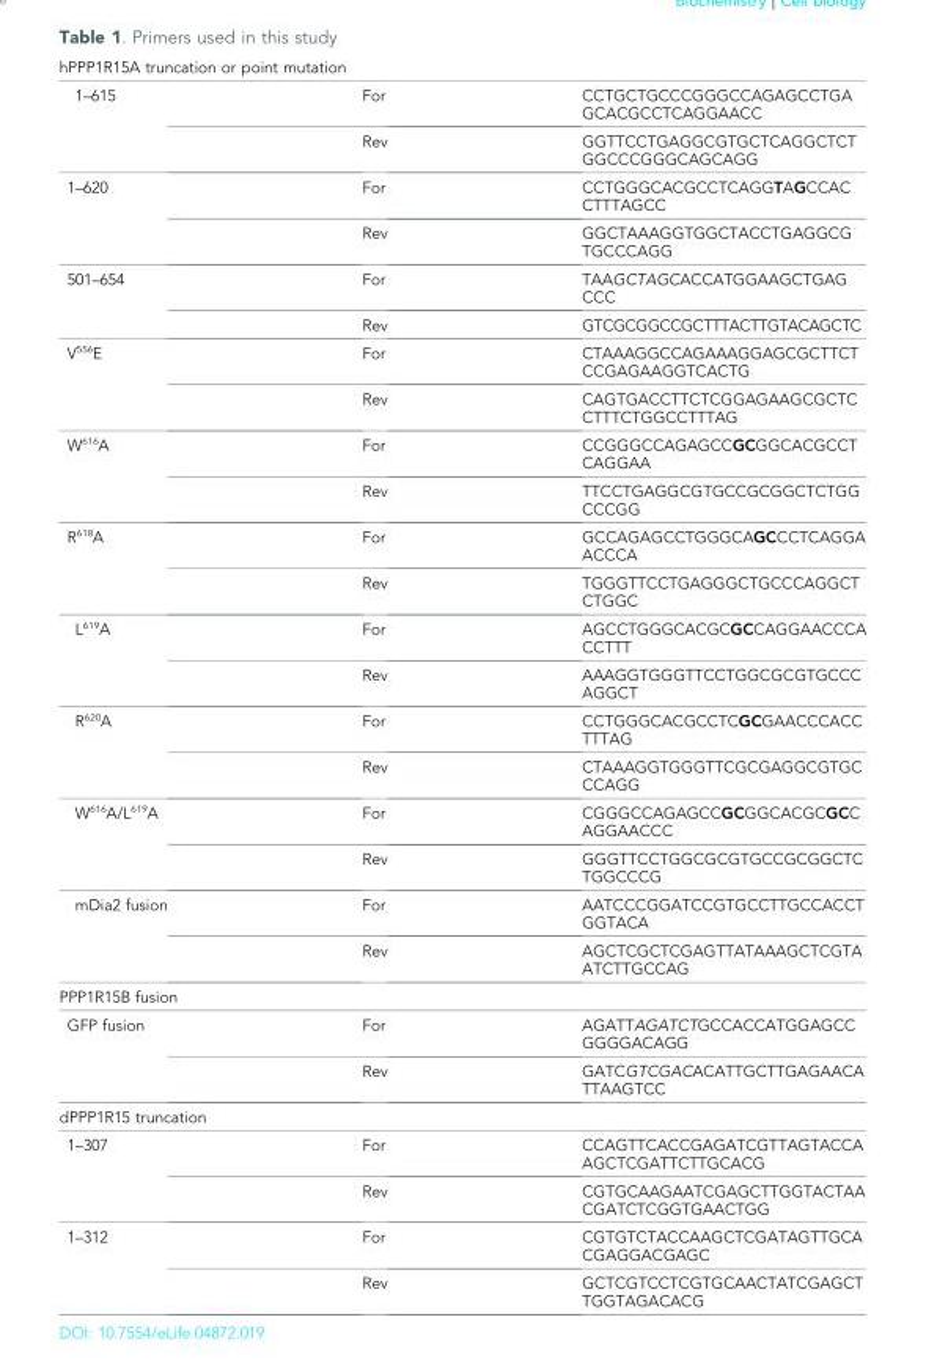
<table><tbody><tr><td colspan="3">hPPP1R15A truncation or point mutation</td></tr><tr><td rowspan="2">1–615</td><td>For</td><td>CCTGCTGCCCGGGCCAGAGCCTGA GCACGCCTCAGGAACC</td></tr><tr><td>Rev</td><td>GGTTCCTGAGGCGTGCTCAGGCTCT GGCCCGGGCAGCAGG</td></tr><tr><td rowspan="2">1–620</td><td>For</td><td>CCTGGGCACGCCTCAGGTAGCCAC CTTTAGCC</td></tr><tr><td>Rev</td><td>GGCTAAAGGTGGCTACCTGAGGCG TGCCCAGG</td></tr><tr><td rowspan="2">501–654</td><td>For</td><td>TAAGCTAGCACCATGGAAGCTGAG CCC</td></tr><tr><td>Rev</td><td>GTCGCGGCCGCTTTACTTGTACAGCTC</td></tr><tr><td rowspan="2">V<sup>556</sup>E</td><td>For</td><td>CTAAAGGCCAGAAAGGAGCGCTTCT CCGAGAAGGTCACTG</td></tr><tr><td>Rev</td><td>CAGTGACCTTCTCGGAGAAGCGCTC CTTTCTGGCCTTTAG</td></tr><tr><td rowspan="2">W<sup>616</sup>A</td><td>For</td><td>CCGGGCCAGAGCCGCGGCACGCCT CAGGAA</td></tr><tr><td>Rev</td><td>TTCCTGAGGCGTGCCGCGGCTCTGG CCCGG</td></tr><tr><td rowspan="2">R<sup>618</sup>A</td><td>For</td><td>GCCAGAGCCTGGGCAGCCCTCAGGA ACCCA</td></tr><tr><td>Rev</td><td>TGGGTTCCTGAGGGCTGCCCAGGCT CTGGC</td></tr><tr><td rowspan="2">L<sup>619</sup>A</td><td>For</td><td>AGCCTGGGCACGCGCCAGGAACCCA CCTTT</td></tr><tr><td>Rev</td><td>AAAGGTGGGTTCCTGGCGCGTGCCC AGGCT</td></tr><tr><td rowspan="2">R<sup>620</sup>A</td><td>For</td><td>CCTGGGCACGCCTCGCGAACCCACC TTTAG</td></tr><tr><td>Rev</td><td>CTAAAGGTGGGTTCGCGAGGCGTGC CCAGG</td></tr><tr><td rowspan="2">W<sup>616</sup>A/L<sup>619</sup>A</td><td>For</td><td>CGGGCCAGAGCCGCGGCACGCGCC AGGAACCC</td></tr><tr><td>Rev</td><td>GGGTTCCTGGCGCGTGCCGCGGCTC TGGCCCG</td></tr><tr><td rowspan="2">mDia2 fusion</td><td>For</td><td>AATCCCGGATCCGTGCCTTGCCACCT GGTACA</td></tr><tr><td>Rev</td><td>AGCTCGCTCGAGTTATAAAGCTCGTA ATCTTGCCAG</td></tr><tr><td colspan="3">PPP1R15B fusion</td></tr><tr><td rowspan="2">GFP fusion</td><td>For</td><td>AGATTAGATCTGCCACCATGGAGCC GGGGACAGG</td></tr><tr><td>Rev</td><td>GATCGTCGACACATTGCTTGAGAACA TTAAGTCC</td></tr><tr><td colspan="3">dPPP1R15 truncation</td></tr><tr><td rowspan="2">1–307</td><td>For</td><td>CCAGTTCACCGAGATCGTTAGTACCA AGCTCGATTCTTGCACG</td></tr><tr><td>Rev</td><td>CGTGCAAGAATCGAGCTTGGTACTAA CGATCTCGGTGAACTGG</td></tr><tr><td rowspan="2">1–312</td><td>For</td><td>CGTGTCTACCAAGCTCGATAGTTGCA CGAGGACGAGC</td></tr><tr><td>Rev</td><td>GCTCGTCCTCGTGCAACTATCGAGCT TGGTAGACACG</td></tr></tbody></table>